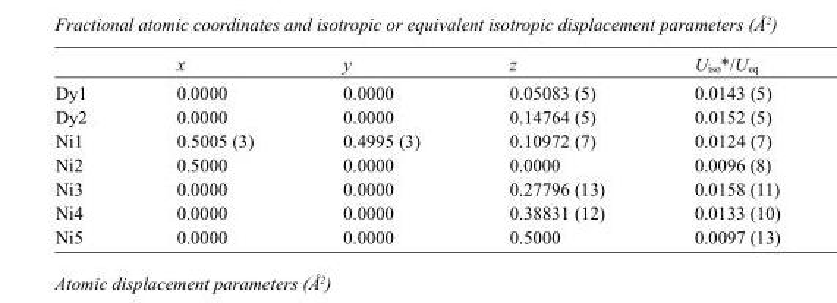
<table><thead><tr><td></td><td>x</td><td>y</td><td>z</td><td>U<sub>iso</sub>*/U<sub>eq</sub></td></tr></thead><tbody><tr><td>Dy1</td><td>0.0000</td><td>0.0000</td><td>0.05083 (5)</td><td>0.0143 (5)</td></tr><tr><td>Dy2</td><td>0.0000</td><td>0.0000</td><td>0.14764 (5)</td><td>0.0152 (5)</td></tr><tr><td>Ni1</td><td>0.5005 (3)</td><td>0.4995 (3)</td><td>0.10972 (7)</td><td>0.0124 (7)</td></tr><tr><td>Ni2</td><td>0.5000</td><td>0.0000</td><td>0.0000</td><td>0.0096 (8)</td></tr><tr><td>Ni3</td><td>0.0000</td><td>0.0000</td><td>0.27796 (13)</td><td>0.0158 (11)</td></tr><tr><td>Ni4</td><td>0.0000</td><td>0.0000</td><td>0.38831 (12)</td><td>0.0133 (10)</td></tr><tr><td>Ni5</td><td>0.0000</td><td>0.0000</td><td>0.5000</td><td>0.0097 (13)</td></tr></tbody></table>